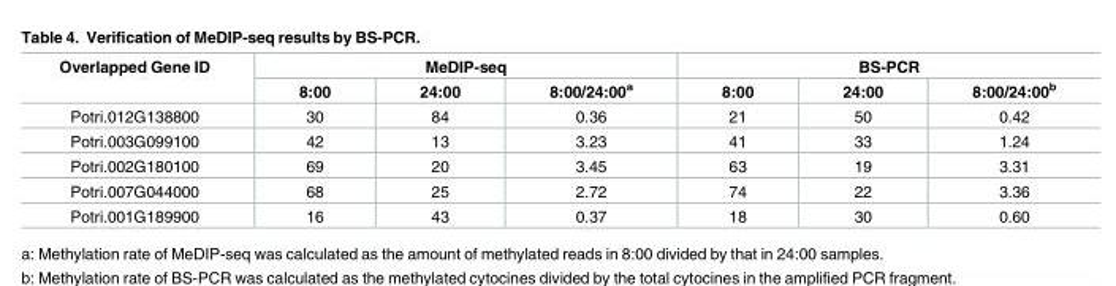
<table><thead><tr><td rowspan="2">Overlapped Gene ID</td><td colspan="3">MeDIP-seq</td><td colspan="3">BS-PCR</td></tr><tr><td>8:00</td><td>24:00</td><td>8:00/24:00<sup>a</sup></td><td>8:00</td><td>24:00</td><td>8:00/24:00<sup>b</sup></td></tr></thead><tbody><tr><td>Potri.012G138800</td><td>30</td><td>84</td><td>0.36</td><td>21</td><td>50</td><td>0.42</td></tr><tr><td>Potri.003G099100</td><td>42</td><td>13</td><td>3.23</td><td>41</td><td>33</td><td>1.24</td></tr><tr><td>Potri.002G180100</td><td>69</td><td>20</td><td>3.45</td><td>63</td><td>19</td><td>3.31</td></tr><tr><td>Potri.007G044000</td><td>68</td><td>25</td><td>2.72</td><td>74</td><td>22</td><td>3.36</td></tr><tr><td>Potri.001G189900</td><td>16</td><td>43</td><td>0.37</td><td>18</td><td>30</td><td>0.60</td></tr></tbody></table>